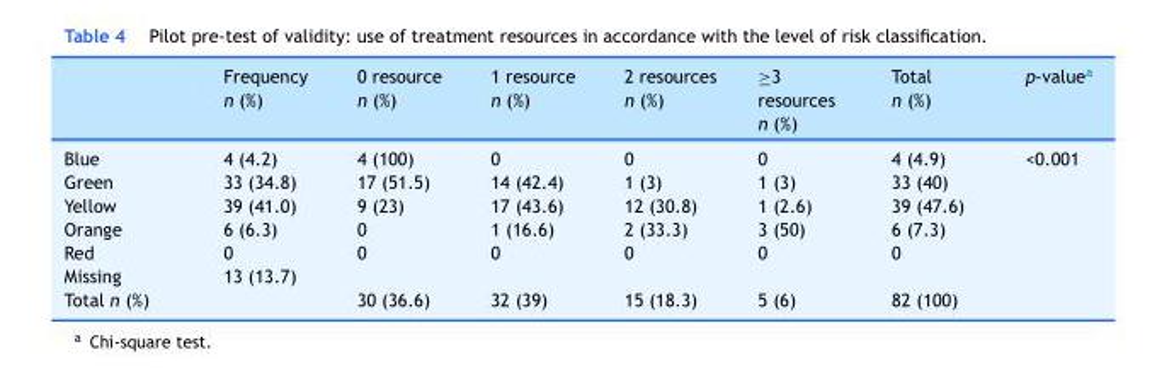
<table><thead><tr><td></td><td>Frequency n (%)</td><td>0 resource n (%)</td><td>1 resource n (%)</td><td>2 resources n (%)</td><td>≥3 resources n (%)</td><td>Total n (%)</td><td>p-value<sup>a</sup></td></tr></thead><tbody><tr><td>Blue</td><td>4 (4.2)</td><td>4 (100)</td><td>0</td><td>0</td><td>0</td><td>4 (4.9)</td><td>&lt;0.001</td></tr><tr><td>Green</td><td>33 (34.8)</td><td>17 (51.5)</td><td>14 (42.4)</td><td>1 (3)</td><td>1 (3)</td><td>33 (40)</td><td></td></tr><tr><td>Yellow</td><td>39 (41.0)</td><td>9 (23)</td><td>17 (43.6)</td><td>12 (30.8)</td><td>1 (2.6)</td><td>39 (47.6)</td><td></td></tr><tr><td>Orange</td><td>6 (6.3)</td><td>0</td><td>1 (16.6)</td><td>2 (33.3)</td><td>3 (50)</td><td>6 (7.3)</td><td></td></tr><tr><td>Red</td><td>0</td><td>0</td><td>0</td><td>0</td><td>0</td><td>0</td><td></td></tr><tr><td>Missing</td><td>13 (13.7)</td><td></td><td></td><td></td><td></td><td></td><td></td></tr><tr><td>Total n (%)</td><td></td><td>30 (36.6)</td><td>32 (39)</td><td>15 (18.3)</td><td>5 (6)</td><td>82 (100)</td><td></td></tr></tbody></table>